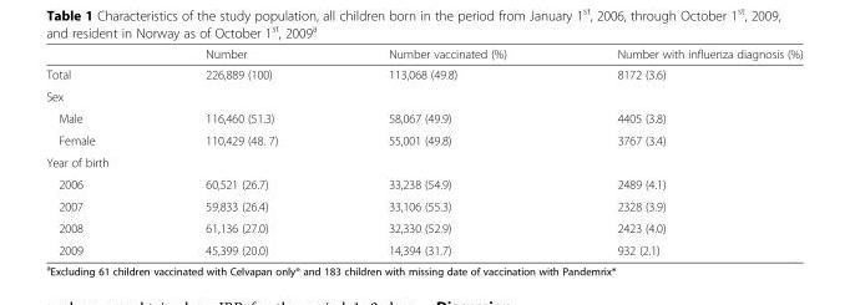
<table><thead><tr><td></td><td>Number</td><td>Number vaccinated (%)</td><td>Number with influenza diagnosis (%)</td></tr></thead><tbody><tr><td>Total</td><td>226,889 (100)</td><td>113,068 (49.8)</td><td>8172 (3.6)</td></tr><tr><td colspan="4">Sex</td></tr><tr><td>Male</td><td>116,460 (51.3)</td><td>58,067 (49.9)</td><td>4405 (3.8)</td></tr><tr><td>Female</td><td>110,429 (48. 7)</td><td>55,001 (49.8)</td><td>3767 (3.4)</td></tr><tr><td colspan="4">Year of birth</td></tr><tr><td>2006</td><td>60,521 (26.7)</td><td>33,238 (54.9)</td><td>2489 (4.1)</td></tr><tr><td>2007</td><td>59,833 (26.4)</td><td>33,106 (55.3)</td><td>2328 (3.9)</td></tr><tr><td>2008</td><td>61,136 (27.0)</td><td>32,330 (52.9)</td><td>2423 (4.0)</td></tr><tr><td>2009</td><td>45,399 (20.0)</td><td>14,394 (31.7)</td><td>932 (2.1)</td></tr></tbody></table>